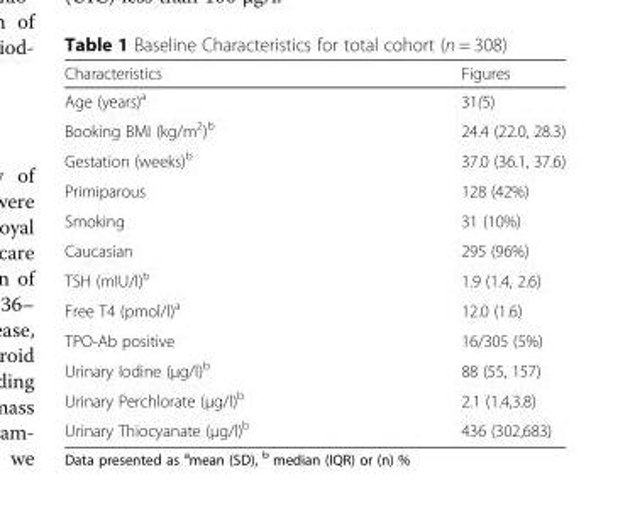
<table><thead><tr><td>Characteristics</td><td>Figures</td></tr></thead><tbody><tr><td>Age (years)<sup>a</sup></td><td>31(5)</td></tr><tr><td>Booking BMI (kg/m<sup>2</sup>)<sup>b</sup></td><td>24.4 (22.0, 28.3)</td></tr><tr><td>Gestation (weeks)<sup>b</sup></td><td>37.0 (36.1, 37.6)</td></tr><tr><td>Primiparous</td><td>128 (42%)</td></tr><tr><td>Smoking</td><td>31 (10%)</td></tr><tr><td>Caucasian</td><td>295 (96%)</td></tr><tr><td>TSH (mIU/l)<sup>b</sup></td><td>1.9 (1.4, 2.6)</td></tr><tr><td>Free T4 (pmol/l)<sup>a</sup></td><td>12.0 (1.6)</td></tr><tr><td>TPO-Ab positive</td><td>16/305 (5%)</td></tr><tr><td>Urinary Iodine (μg/l)<sup>b</sup></td><td>88 (55, 157)</td></tr><tr><td>Urinary Perchlorate (μg/l)<sup>b</sup></td><td>2.1 (1.4,3.8)</td></tr><tr><td>Urinary Thiocyanate (μg/l)<sup>b</sup></td><td>436 (302,683)</td></tr></tbody></table>